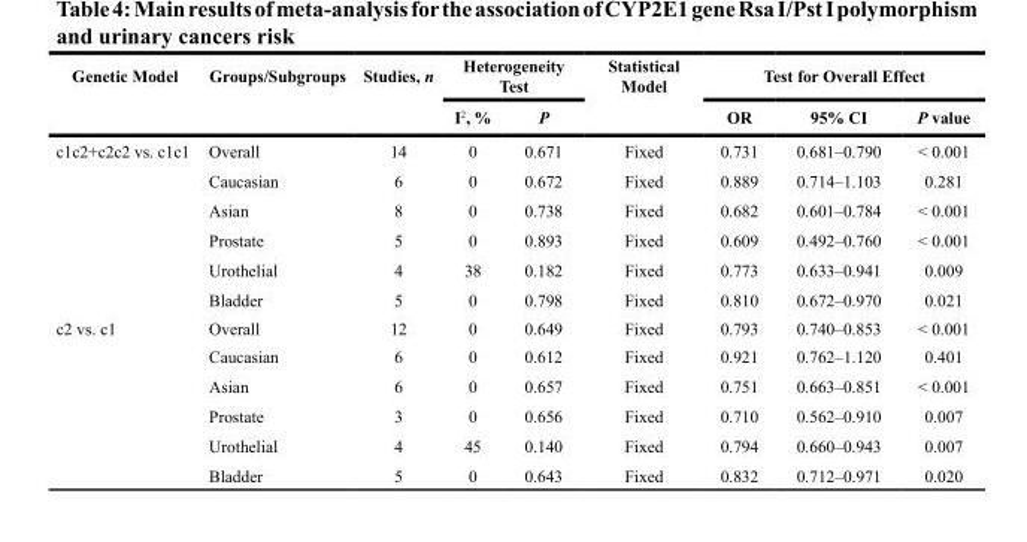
<table><thead><tr><td rowspan="2">Genetic Model</td><td rowspan="2">Groups/Subgroups</td><td rowspan="2">Studies, n</td><td colspan="2">Heterogeneity Test</td><td rowspan="2">Statistical Model</td><td colspan="3">Test for Overall Effect</td></tr><tr><td>I<sup>2</sup>, %</td><td>P</td><td>OR</td><td>95% CI</td><td>P value</td></tr></thead><tbody><tr><td rowspan="6">c1c2+c2c2 vs. c1c1</td><td>Overall</td><td>14</td><td>0</td><td>0.671</td><td>Fixed</td><td>0.731</td><td>0.681–0.790</td><td>&lt; 0.001</td></tr><tr><td>Caucasian</td><td>6</td><td>0</td><td>0.672</td><td>Fixed</td><td>0.889</td><td>0.714–1.103</td><td>0.281</td></tr><tr><td>Asian</td><td>8</td><td>0</td><td>0.738</td><td>Fixed</td><td>0.682</td><td>0.601–0.784</td><td>&lt; 0.001</td></tr><tr><td>Prostate</td><td>5</td><td>0</td><td>0.893</td><td>Fixed</td><td>0.609</td><td>0.492–0.760</td><td>&lt; 0.001</td></tr><tr><td>Urothelial</td><td>4</td><td>38</td><td>0.182</td><td>Fixed</td><td>0.773</td><td>0.633–0.941</td><td>0.009</td></tr><tr><td>Bladder</td><td>5</td><td>0</td><td>0.798</td><td>Fixed</td><td>0.810</td><td>0.672–0.970</td><td>0.021</td></tr><tr><td rowspan="6">c2 vs. c1</td><td>Overall</td><td>12</td><td>0</td><td>0.649</td><td>Fixed</td><td>0.793</td><td>0.740–0.853</td><td>&lt; 0.001</td></tr><tr><td>Caucasian</td><td>6</td><td>0</td><td>0.612</td><td>Fixed</td><td>0.921</td><td>0.762–1.120</td><td>0.401</td></tr><tr><td>Asian</td><td>6</td><td>0</td><td>0.657</td><td>Fixed</td><td>0.751</td><td>0.663–0.851</td><td>&lt; 0.001</td></tr><tr><td>Prostate</td><td>3</td><td>0</td><td>0.656</td><td>Fixed</td><td>0.710</td><td>0.562–0.910</td><td>0.007</td></tr><tr><td>Urothelial</td><td>4</td><td>45</td><td>0.140</td><td>Fixed</td><td>0.794</td><td>0.660–0.943</td><td>0.007</td></tr><tr><td>Bladder</td><td>5</td><td>0</td><td>0.643</td><td>Fixed</td><td>0.832</td><td>0.712–0.971</td><td>0.020</td></tr></tbody></table>